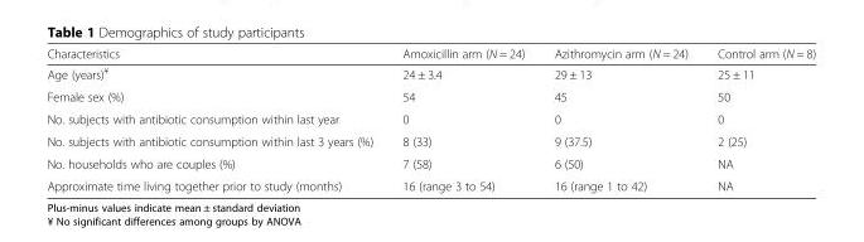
<table><thead><tr><td>Characteristics</td><td>Amoxicillin arm (N = 24)</td><td>Azithromycin arm (N = 24)</td><td>Control arm (N = 8)</td></tr></thead><tbody><tr><td>Age (years)<sup>¥</sup></td><td>24 ± 3.4</td><td>29 ± 13</td><td>25 ± 11</td></tr><tr><td>Female sex (%)</td><td>54</td><td>45</td><td>50</td></tr><tr><td>No. subjects with antibiotic consumption within last year</td><td>0</td><td>0</td><td>0</td></tr><tr><td>No. subjects with antibiotic consumption within last 3 years (%)</td><td>8 (33)</td><td>9 (37.5)</td><td>2 (25)</td></tr><tr><td>No. households who are couples (%)</td><td>7 (58)</td><td>6 (50)</td><td>NA</td></tr><tr><td>Approximate time living together prior to study (months)</td><td>16 (range 3 to 54)</td><td>16 (range 1 to 42)</td><td>NA</td></tr></tbody></table>